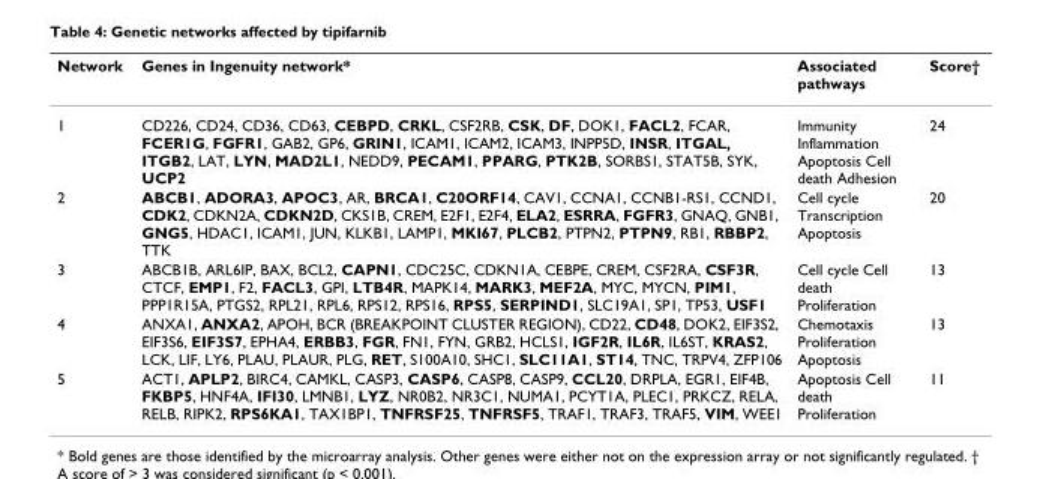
<table><thead><tr><td>Network</td><td>Genes in Ingenuity network*</td><td>Associated pathways</td><td>Score†</td></tr></thead><tbody><tr><td>1</td><td>CD226, CD24, CD36, CD63, CEBPD, CRKL, CSF2RB, CSK, DF, DOK1, FACL2, FCAR, FCER1G, FGFR1, GAB2, GP6, GRIN1, ICAM1, ICAM2, ICAM3, INPP5D, INSR, ITGAL, ITGB2, LAT, LYN, MAD2L1, NEDD9, PECAM1, PPARG, PTK2B, SORBS1, STAT5B, SYK, UCP2</td><td>Immunity Inflammation Apoptosis Cell death Adhesion</td><td>24</td></tr><tr><td>2</td><td>ABCB1, ADORA3, APOC3, AR, BRCA1, C20ORF14, CAV1, CCNA1, CCNB1-RS1, CCND1, CDK2, CDKN2A, CDKN2D, CKS1B, CREM, E2F1, E2F4, ELA2, ESRRA, FGFR3, GNAQ, GNB1, GNG5, HDAC1, ICAM1, JUN, KLKB1, LAMP1, MKI67, PLCB2, PTPN2, PTPN9, RB1, RBBP2, TTK</td><td>Cell cycle Transcription Apoptosis</td><td>20</td></tr><tr><td>3</td><td>ABCB1B, ARL6IP, BAX, BCL2, CAPN1, CDC25C, CDKN1A, CEBPE, CREM, CSF2RA, CSF3R, CTCF, EMP1, F2, FACL3, GPI, LTB4R, MAPK14, MARK3, MEF2A, MYC, MYCN, PIM1, PPP1R15A, PTGS2, RPL21, RPL6, RPS12, RPS16, RPS5, SERPIND1, SLC19A1, SP1, TP53, USF1</td><td>Cell cycle Cell death Proliferation</td><td>13</td></tr><tr><td>4</td><td>ANXA1, ANXA2, APOH, BCR (BREAKPOINT CLUSTER REGION), CD22, CD48, DOK2, EIF3S2, EIF3S6, EIF3S7, EPHA4, ERBB3, FGR, FN1, FYN, GRB2, HCLS1, IGF2R, IL6R, IL6ST, KRAS2, LCK, LIF, LY6, PLAU, PLAUR, PLG, RET, S100A10, SHC1, SLC11A1, ST14, TNC, TRPV4, ZFP106</td><td>Chemotaxis Proliferation Apoptosis</td><td>13</td></tr><tr><td>5</td><td>ACT1, APLP2, BIRC4, CAMKL, CASP3, CASP6, CASP8, CASP9, CCL20, DRPLA, EGR1, EIF4B, FKBP5, HNF4A, IFI30, LMNB1, LYZ, NR0B2, NR3C1, NUMA1, PCYT1A, PLEC1, PRKCZ, RELA, RELB, RIPK2, RPS6KA1, TAX1BP1, TNFRSF25, TNFRSF5, TRAF1, TRAF3, TRAF5, VIM, WEE1</td><td>Apoptosis Cell death Proliferation</td><td>11</td></tr></tbody></table>